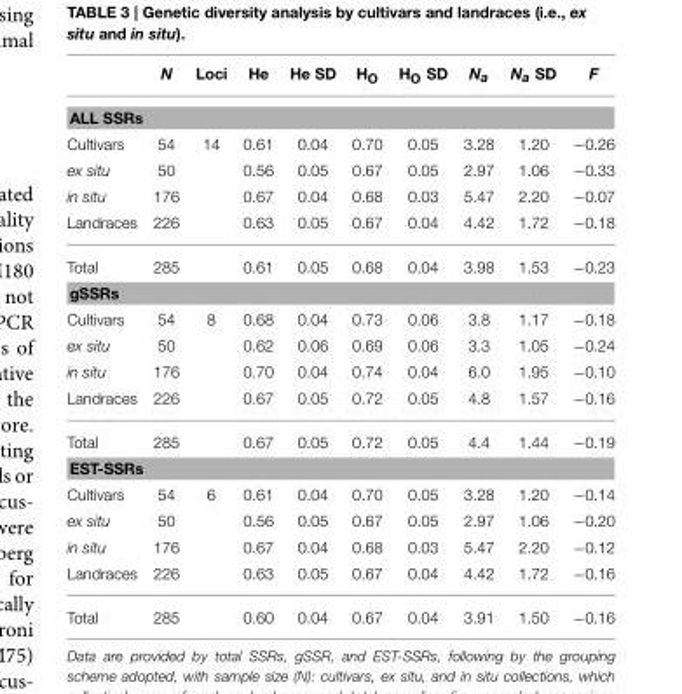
<table><thead><tr><td></td><td>N</td><td>Loci</td><td>He</td><td>He SD</td><td>H<sub>O</sub></td><td>H<sub>O</sub> SD</td><td>N<sub>a</sub></td><td>N<sub>a</sub> SD</td><td>F</td></tr></thead><tbody><tr><td colspan="10">ALL SSRs</td></tr><tr><td>Cultivars</td><td>54</td><td>14</td><td>0.61</td><td>0.04</td><td>0.70</td><td>0.05</td><td>3.28</td><td>1.20</td><td>−0.26</td></tr><tr><td>ex situ</td><td>50</td><td></td><td>0.56</td><td>0.05</td><td>0.67</td><td>0.05</td><td>2.97</td><td>1.06</td><td>−0.33</td></tr><tr><td>in situ</td><td>176</td><td></td><td>0.67</td><td>0.04</td><td>0.68</td><td>0.03</td><td>5.47</td><td>2.20</td><td>−0.07</td></tr><tr><td>Landraces</td><td>226</td><td></td><td>0.63</td><td>0.05</td><td>0.67</td><td>0.04</td><td>4.42</td><td>1.72</td><td>−0.18</td></tr><tr><td>Total</td><td>285</td><td></td><td>0.61</td><td>0.05</td><td>0.68</td><td>0.04</td><td>3.98</td><td>1.53</td><td>−0.23</td></tr><tr><td colspan="10">gSSRs</td></tr><tr><td>Cultivars</td><td>54</td><td>8</td><td>0.68</td><td>0.04</td><td>0.73</td><td>0.06</td><td>3.8</td><td>1.17</td><td>−0.18</td></tr><tr><td>ex situ</td><td>50</td><td></td><td>0.62</td><td>0.06</td><td>0.69</td><td>0.06</td><td>3.3</td><td>1.05</td><td>−0.24</td></tr><tr><td>in situ</td><td>176</td><td></td><td>0.70</td><td>0.04</td><td>0.74</td><td>0.04</td><td>6.0</td><td>1.95</td><td>−0.10</td></tr><tr><td>Landraces</td><td>226</td><td></td><td>0.67</td><td>0.05</td><td>0.72</td><td>0.05</td><td>4.8</td><td>1.57</td><td>−0.16</td></tr><tr><td>Total</td><td>285</td><td></td><td>0.67</td><td>0.05</td><td>0.72</td><td>0.05</td><td>4.4</td><td>1.44</td><td>−0.19</td></tr><tr><td colspan="10">EST-SSRs</td></tr><tr><td>Cultivars</td><td>54</td><td>6</td><td>0.61</td><td>0.04</td><td>0.70</td><td>0.05</td><td>3.28</td><td>1.20</td><td>−0.14</td></tr><tr><td>ex situ</td><td>50</td><td></td><td>0.56</td><td>0.05</td><td>0.67</td><td>0.05</td><td>2.97</td><td>1.06</td><td>−0.20</td></tr><tr><td>in situ</td><td>176</td><td></td><td>0.67</td><td>0.04</td><td>0.68</td><td>0.03</td><td>5.47</td><td>2.20</td><td>−0.12</td></tr><tr><td>Landraces</td><td>226</td><td></td><td>0.63</td><td>0.05</td><td>0.67</td><td>0.04</td><td>4.42</td><td>1.72</td><td>−0.16</td></tr><tr><td>Total</td><td>285</td><td></td><td>0.60</td><td>0.04</td><td>0.67</td><td>0.04</td><td>3.91</td><td>1.50</td><td>−0.16</td></tr></tbody></table>